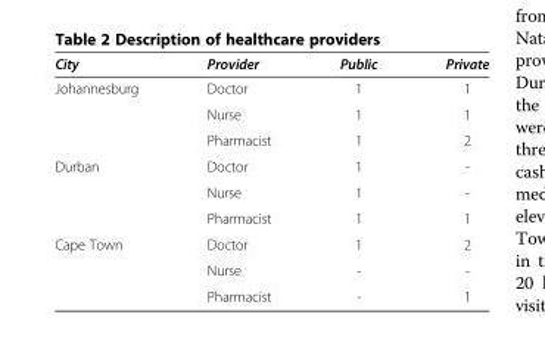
<table><thead><tr><td>City</td><td>Provider</td><td>Public</td><td>Private</td></tr></thead><tbody><tr><td rowspan="3">Johannesburg</td><td>Doctor</td><td>1</td><td>1</td></tr><tr><td>Nurse</td><td>1</td><td>1</td></tr><tr><td>Pharmacist</td><td>1</td><td>2</td></tr><tr><td rowspan="3">Durban</td><td>Doctor</td><td>1</td><td>-</td></tr><tr><td>Nurse</td><td>1</td><td>-</td></tr><tr><td>Pharmacist</td><td>1</td><td>1</td></tr><tr><td rowspan="3">Cape Town</td><td>Doctor</td><td>1</td><td>2</td></tr><tr><td>Nurse</td><td>-</td><td>-</td></tr><tr><td>Pharmacist</td><td>-</td><td>1</td></tr></tbody></table>